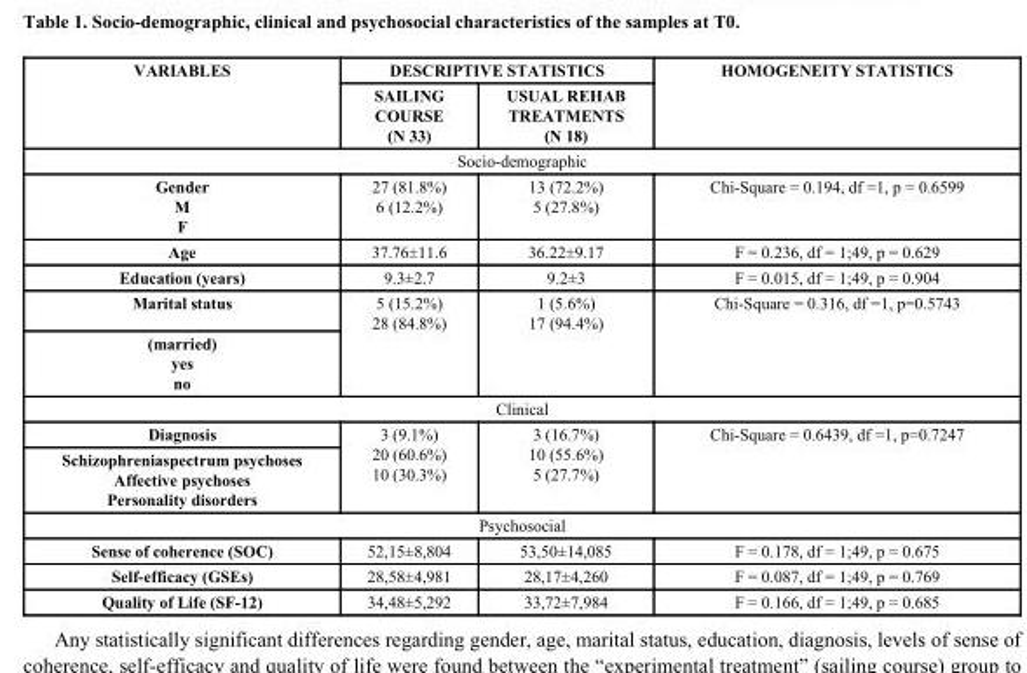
<table><thead><tr><td rowspan="2">VARIABLES</td><td colspan="2">DESCRIPTIVE STATISTICS</td><td rowspan="2">HOMOGENEITY STATISTICS</td></tr><tr><td>SAILING COURSE (N 33)</td><td>USUAL REHAB TREATMENTS (N 18)</td></tr></thead><tbody><tr><td colspan="4">Socio-demographic</td></tr><tr><td>Gender M F</td><td>27 (81.8%) 6 (12.2%)</td><td>13 (72.2%) 5 (27.8%)</td><td>Chi-Square = 0.194, df =1, p = 0.6599</td></tr><tr><td>Age</td><td>37.76±11.6</td><td>36.22±9.17</td><td>F = 0.236, df = 1;49, p = 0.629</td></tr><tr><td>Education (years)</td><td>9.3±2.7</td><td>9.2±3</td><td>F = 0.015, df = 1;49, p = 0.904</td></tr><tr><td>Marital status</td><td rowspan="2">5 (15.2%) 28 (84.8%)</td><td rowspan="2">1 (5.6%) 17 (94.4%)</td><td rowspan="2">Chi-Square = 0.316, df =1, p=0.5743</td></tr><tr><td>(married) yes no</td></tr><tr><td colspan="4">Clinical</td></tr><tr><td>Diagnosis</td><td rowspan="2">3 (9.1%) 20 (60.6%) 10 (30.3%)</td><td rowspan="2">3 (16.7%) 10 (55.6%) 5 (27.7%)</td><td rowspan="2">Chi-Square = 0.6439, df =1, p=0.7247</td></tr><tr><td>Schizophreniaspectrum psychoses Affective psychoses Personality disorders</td></tr><tr><td colspan="4">Psychosocial</td></tr><tr><td>Sense of coherence (SOC)</td><td>52,15±8,804</td><td>53,50±14,085</td><td>F = 0.178, df = 1;49, p = 0.675</td></tr><tr><td>Self-efficacy (GSEs)</td><td>28,58±4,981</td><td>28,17±4,260</td><td>F = 0.087, df = 1;49, p = 0.769</td></tr><tr><td>Quality of Life (SF-12)</td><td>34,48±5,292</td><td>33,72±7,984</td><td>F = 0.166, df = 1;49, p = 0.685</td></tr></tbody></table>